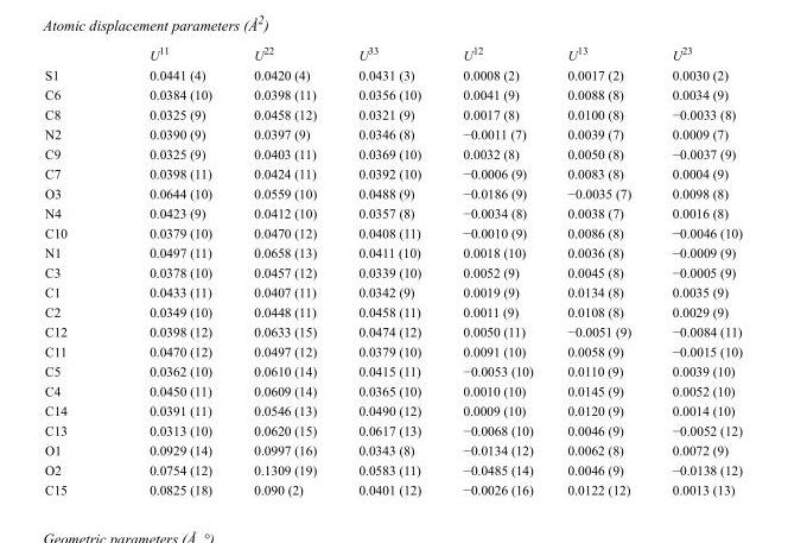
<table><thead><tr><td></td><td>U<sup>11</sup></td><td>U<sup>22</sup></td><td>U<sup>33</sup></td><td>U<sup>12</sup></td><td>U<sup>13</sup></td><td>U<sup>23</sup></td></tr></thead><tbody><tr><td>S1</td><td>0.0441 (4)</td><td>0.0420 (4)</td><td>0.0431 (3)</td><td>0.0008 (2)</td><td>0.0017 (2)</td><td>0.0030 (2)</td></tr><tr><td>C6</td><td>0.0384 (10)</td><td>0.0398 (11)</td><td>0.0356 (10)</td><td>0.0041 (9)</td><td>0.0088 (8)</td><td>0.0034 (9)</td></tr><tr><td>C8</td><td>0.0325 (9)</td><td>0.0458 (12)</td><td>0.0321 (9)</td><td>0.0017 (8)</td><td>0.0100 (8)</td><td>−0.0033 (8)</td></tr><tr><td>N2</td><td>0.0390 (9)</td><td>0.0397 (9)</td><td>0.0346 (8)</td><td>−0.0011 (7)</td><td>0.0039 (7)</td><td>0.0009 (7)</td></tr><tr><td>C9</td><td>0.0325 (9)</td><td>0.0403 (11)</td><td>0.0369 (10)</td><td>0.0032 (8)</td><td>0.0050 (8)</td><td>−0.0037 (9)</td></tr><tr><td>C7</td><td>0.0398 (11)</td><td>0.0424 (11)</td><td>0.0392 (10)</td><td>−0.0006 (9)</td><td>0.0083 (8)</td><td>0.0004 (9)</td></tr><tr><td>O3</td><td>0.0644 (10)</td><td>0.0559 (10)</td><td>0.0488 (9)</td><td>−0.0186 (9)</td><td>−0.0035 (7)</td><td>0.0098 (8)</td></tr><tr><td>N4</td><td>0.0423 (9)</td><td>0.0412 (10)</td><td>0.0357 (8)</td><td>−0.0034 (8)</td><td>0.0038 (7)</td><td>0.0016 (8)</td></tr><tr><td>C10</td><td>0.0379 (10)</td><td>0.0470 (12)</td><td>0.0408 (11)</td><td>−0.0010 (9)</td><td>0.0086 (8)</td><td>−0.0046 (10)</td></tr><tr><td>N1</td><td>0.0497 (11)</td><td>0.0658 (13)</td><td>0.0411 (10)</td><td>0.0018 (10)</td><td>0.0036 (8)</td><td>−0.0009 (9)</td></tr><tr><td>C3</td><td>0.0378 (10)</td><td>0.0457 (12)</td><td>0.0339 (10)</td><td>0.0052 (9)</td><td>0.0045 (8)</td><td>−0.0005 (9)</td></tr><tr><td>C1</td><td>0.0433 (11)</td><td>0.0407 (11)</td><td>0.0342 (9)</td><td>0.0019 (9)</td><td>0.0134 (8)</td><td>0.0035 (9)</td></tr><tr><td>C2</td><td>0.0349 (10)</td><td>0.0448 (11)</td><td>0.0458 (11)</td><td>0.0011 (9)</td><td>0.0108 (8)</td><td>0.0029 (9)</td></tr><tr><td>C12</td><td>0.0398 (12)</td><td>0.0633 (15)</td><td>0.0474 (12)</td><td>0.0050 (11)</td><td>−0.0051 (9)</td><td>−0.0084 (11)</td></tr><tr><td>C11</td><td>0.0470 (12)</td><td>0.0497 (12)</td><td>0.0379 (10)</td><td>0.0091 (10)</td><td>0.0058 (9)</td><td>−0.0015 (10)</td></tr><tr><td>C5</td><td>0.0362 (10)</td><td>0.0610 (14)</td><td>0.0415 (11)</td><td>−0.0053 (10)</td><td>0.0110 (9)</td><td>0.0039 (10)</td></tr><tr><td>C4</td><td>0.0450 (11)</td><td>0.0609 (14)</td><td>0.0365 (10)</td><td>0.0010 (10)</td><td>0.0145 (9)</td><td>0.0052 (10)</td></tr><tr><td>C14</td><td>0.0391 (11)</td><td>0.0546 (13)</td><td>0.0490 (12)</td><td>0.0009 (10)</td><td>0.0120 (9)</td><td>0.0014 (10)</td></tr><tr><td>C13</td><td>0.0313 (10)</td><td>0.0620 (15)</td><td>0.0617 (13)</td><td>−0.0068 (10)</td><td>0.0046 (9)</td><td>−0.0052 (12)</td></tr><tr><td>O1</td><td>0.0929 (14)</td><td>0.0997 (16)</td><td>0.0343 (8)</td><td>−0.0134 (12)</td><td>0.0062 (8)</td><td>0.0072 (9)</td></tr><tr><td>O2</td><td>0.0754 (12)</td><td>0.1309 (19)</td><td>0.0583 (11)</td><td>−0.0485 (14)</td><td>0.0046 (9)</td><td>−0.0138 (12)</td></tr><tr><td>C15</td><td>0.0825 (18)</td><td>0.090 (2)</td><td>0.0401 (12)</td><td>−0.0026 (16)</td><td>0.0122 (12)</td><td>0.0013 (13)</td></tr></tbody></table>